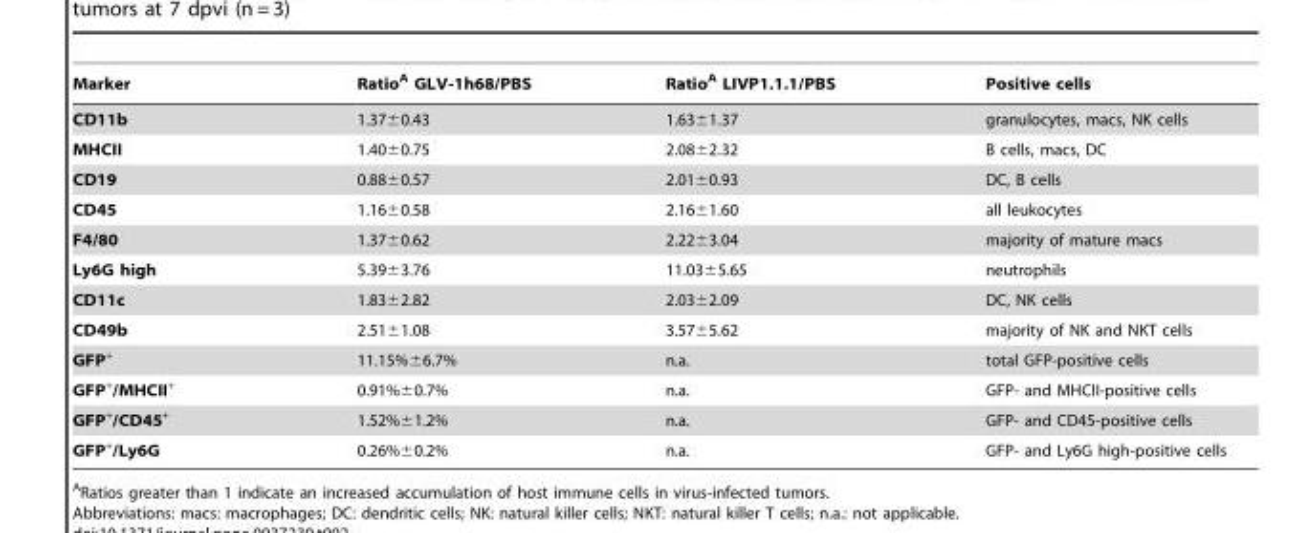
<table><thead><tr><td>Marker</td><td>Ratio<sup>A</sup> GLV-1h68/PBS</td><td>Ratio<sup>A</sup> LIVP1.1.1/PBS</td><td>Positive cells</td></tr></thead><tbody><tr><td>CD11b</td><td>1.37±0.43</td><td>1.63±1.37</td><td>granulocytes, macs, NK cells</td></tr><tr><td>MHCII</td><td>1.40±0.75</td><td>2.08±2.32</td><td>B cells, macs, DC</td></tr><tr><td>CD19</td><td>0.88±0.57</td><td>2.01±0.93</td><td>DC, B cells</td></tr><tr><td>CD45</td><td>1.16±0.58</td><td>2.16±1.60</td><td>all leukocytes</td></tr><tr><td>F4/80</td><td>1.37±0.62</td><td>2.22±3.04</td><td>majority of mature macs</td></tr><tr><td>Ly6G high</td><td>5.39±3.76</td><td>11.03±5.65</td><td>neutrophils</td></tr><tr><td>CD11c</td><td>1.83±2.82</td><td>2.03±2.09</td><td>DC, NK cells</td></tr><tr><td>CD49b</td><td>2.51±1.08</td><td>3.57±5.62</td><td>majority of NK and NKT cells</td></tr><tr><td>GFP<sup>+</sup></td><td>11.15%±6.7%</td><td>n.a.</td><td>total GFP-positive cells</td></tr><tr><td>GFP<sup>+</sup>/MHCII<sup>+</sup></td><td>0.91%±0.7%</td><td>n.a.</td><td>GFP- and MHCII-positive cells</td></tr><tr><td>GFP<sup>+</sup>/CD45<sup>+</sup></td><td>1.52%±1.2%</td><td>n.a.</td><td>GFP- and CD45-positive cells</td></tr><tr><td>GFP<sup>+</sup>/Ly6G</td><td>0.26%±0.2%</td><td>n.a.</td><td>GFP- and Ly6G high-positive cells</td></tr></tbody></table>